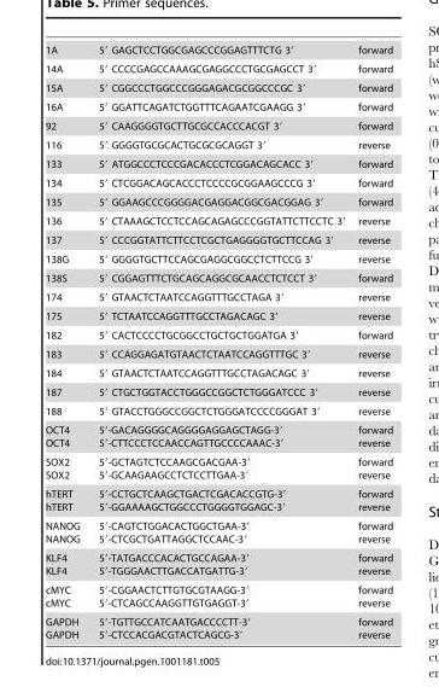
<table><tbody><tr><td>1A</td><td>5′ GAGCTCCTGGCGAGCCCGGAGTTTCTG 3′</td><td>forward</td></tr><tr><td>14A</td><td>5′ CCCCGAGCCAAAGCGAGGCCCTGCGAGCCT 3′</td><td>forward</td></tr><tr><td>15A</td><td>5′ CGGCCCTGGCCCGGGAGACGCGGCCCGC 3′</td><td>forward</td></tr><tr><td>16A</td><td>5′ GGATTCAGATCTGGTTTCAGAATCGAAGG 3′</td><td>forward</td></tr><tr><td>92</td><td>5′ CAAGGGGTGCTTGCGCCACCCACGT 3′</td><td>forward</td></tr><tr><td>116</td><td>5′ GGGGTGCGCACTGCGCGCAGGT 3′</td><td>reverse</td></tr><tr><td>133</td><td>5′ ATGGCCCTCCCGACACCCTCGGACAGCACC 3′</td><td>forward</td></tr><tr><td>134</td><td>5′ CTCGGACAGCACCCTCCCCGCGGAAGCCCG 3′</td><td>forward</td></tr><tr><td>135</td><td>5′ GGAAGCCCGGGGACGAGGACGGCGACGGAG 3′</td><td>forward</td></tr><tr><td>136</td><td>5′ CTAAAGCTCCTCCAGCAGAGCCCGGTATTCTTCCTC 3′</td><td>reverse</td></tr><tr><td>137</td><td>5′ CCCGGTATTCTTCCTCGCTGAGGGGTGCTTCCAG 3′</td><td>reverse</td></tr><tr><td>138G</td><td>5′ GGGGTGCTTCCAGCGAGGCGGCCTCTTCCG 3′</td><td>reverse</td></tr><tr><td>138S</td><td>5′ CGGAGTTTCTGCAGCAGGCGCAACCTCTCCT 3′</td><td>forward</td></tr><tr><td>174</td><td>5′ GTAACTCTAATCCAGGTTTGCCTAGA 3′</td><td>reverse</td></tr><tr><td>175</td><td>5′ TCTAATCCAGGTTTGCCTAGACAGC 3′</td><td>reverse</td></tr><tr><td>182</td><td>5′ CACTCCCCTGCGGCCTGCTGCTGGATGA 3′</td><td>forward</td></tr><tr><td>183</td><td>5′ CCAGGAGATGTAACTCTAATCCAGGTTTGC 3′</td><td>reverse</td></tr><tr><td>184</td><td>5′ GTAACTCTAATCCAGGTTTGCCTAGACAGC 3′</td><td>reverse</td></tr><tr><td>187</td><td>5′ CTGCTGGTACCTGGGCCGGCTCTGGGATCCC 3′</td><td>reverse</td></tr><tr><td>188</td><td>5′ GTACCTGGGCCGGCTCTGGGATCCCCGGGAT 3′</td><td>reverse</td></tr><tr><td>OCT4 OCT4</td><td>5′-GACAGGGGCAGGGGAGGAGCTAGG-3′ 5′-CTTCCCTCCAACCAGTTGCCCCAAAC-3′</td><td>forward reverse</td></tr><tr><td>SOX2 SOX2</td><td>5′-GCTAGTCTCCAAGCGACGAA-3′ 5′-GCAAGAAGCCTCTCCTTGAA-3′</td><td>forward reverse</td></tr><tr><td>hTERT hTERT</td><td>5′-CCTGCTCAAGCTGACTCGACACCGTG-3′ 5′-GGAAAAGCTGGCCCTGGGGTGGAGC-3′</td><td>forward reverse</td></tr><tr><td>NANOG NANOG</td><td>5′-CAGTCTGGACACTGGCTGAA-3′ 5′-CTCGCTGATTAGGCTCCAAC-3′</td><td>forward reverse</td></tr><tr><td>KLF4 KLF4</td><td>5′-TATGACCCACACTGCCAGAA-3′ 5′-TGGGAACTTGACCATGATTG-3′</td><td>forward reverse</td></tr><tr><td>cMYC cMYC</td><td>5′-CGGAACTCTTGTGCGTAAGG-3′ 5′-CTCAGCCAAGGTTGTGAGGT-3′</td><td>forward reverse</td></tr><tr><td>GAPDH GAPDH</td><td>5′-TGTTGCCATCAATGACCCCTT-3′ 5′-CTCCACGACGTACTCAGCG-3′</td><td>forward reverse</td></tr></tbody></table>